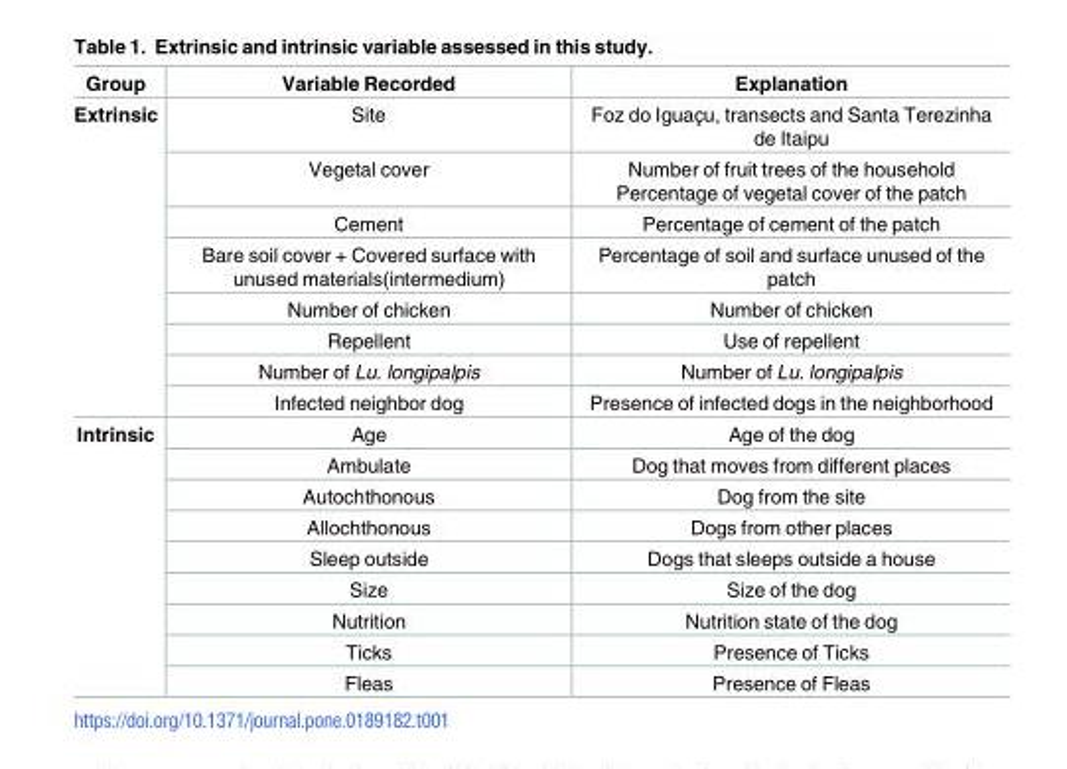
<table><thead><tr><td>Group</td><td>Variable Recorded</td><td>Explanation</td></tr></thead><tbody><tr><td rowspan="8">Extrinsic</td><td>Site</td><td>Foz do Iguac¸u, transects and Santa Terezinha de Itaipu</td></tr><tr><td>Vegetal cover</td><td>Number of fruit trees of the household Percentage of vegetal cover of the patch</td></tr><tr><td>Cement</td><td>Percentage of cement of the patch</td></tr><tr><td>Bare soil cover + Covered surface with unused materials(intermedium)</td><td>Percentage of soil and surface unused of the patch</td></tr><tr><td>Number of chicken</td><td>Number of chicken</td></tr><tr><td>Repellent</td><td>Use of repellent</td></tr><tr><td>Number of Lu. longipalpis</td><td>Number of Lu. longipalpis</td></tr><tr><td>Infected neighbor dog</td><td>Presence of infected dogs in the neighborhood</td></tr><tr><td rowspan="9">Intrinsic</td><td>Age</td><td>Age of the dog</td></tr><tr><td>Ambulate</td><td>Dog that moves from different places</td></tr><tr><td>Autochthonous</td><td>Dog from the site</td></tr><tr><td>Allochthonous</td><td>Dogs from other places</td></tr><tr><td>Sleep outside</td><td>Dogs that sleeps outside a house</td></tr><tr><td>Size</td><td>Size of the dog</td></tr><tr><td>Nutrition</td><td>Nutrition state of the dog</td></tr><tr><td>Ticks</td><td>Presence of Ticks</td></tr><tr><td>Fleas</td><td>Presence of Fleas</td></tr></tbody></table>